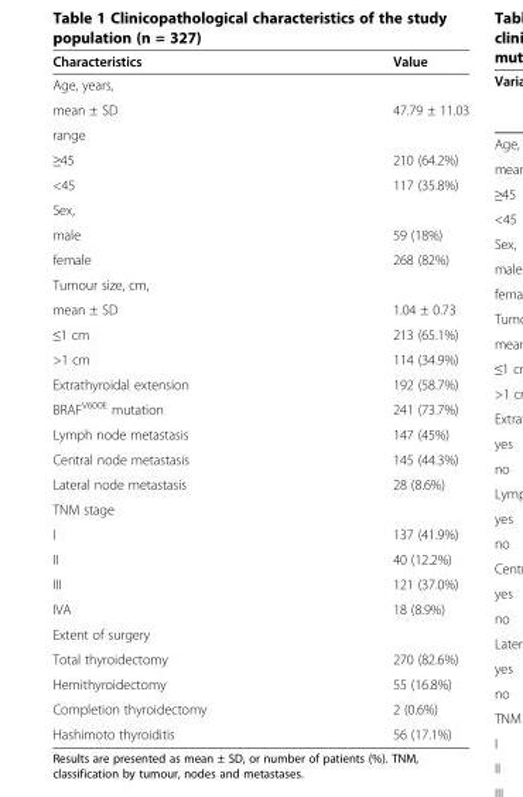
<table><thead><tr><td>Characteristics</td><td>Value</td></tr></thead><tbody><tr><td colspan="2">Age, years,</td></tr><tr><td>mean ± SD</td><td>47.79 ± 11.03</td></tr><tr><td colspan="2">range</td></tr><tr><td>≥45</td><td>210 (64.2%)</td></tr><tr><td>&lt;45</td><td>117 (35.8%)</td></tr><tr><td colspan="2">Sex,</td></tr><tr><td>male</td><td>59 (18%)</td></tr><tr><td>female</td><td>268 (82%)</td></tr><tr><td colspan="2">Tumour size, cm,</td></tr><tr><td>mean ± SD</td><td>1.04 ± 0.73</td></tr><tr><td>≤1 cm</td><td>213 (65.1%)</td></tr><tr><td>&gt;1 cm</td><td>114 (34.9%)</td></tr><tr><td>Extrathyroidal extension</td><td>192 (58.7%)</td></tr><tr><td>BRAF<sup>V600E</sup> mutation</td><td>241 (73.7%)</td></tr><tr><td>Lymph node metastasis</td><td>147 (45%)</td></tr><tr><td>Central node metastasis</td><td>145 (44.3%)</td></tr><tr><td>Lateral node metastasis</td><td>28 (8.6%)</td></tr><tr><td colspan="2">TNM stage</td></tr><tr><td>I</td><td>137 (41.9%)</td></tr><tr><td>II</td><td>40 (12.2%)</td></tr><tr><td>III</td><td>121 (37.0%)</td></tr><tr><td>IVA</td><td>18 (8.9%)</td></tr><tr><td colspan="2">Extent of surgery</td></tr><tr><td>Total thyroidectomy</td><td>270 (82.6%)</td></tr><tr><td>Hemithyroidectomy</td><td>55 (16.8%)</td></tr><tr><td>Completion thyroidectomy</td><td>2 (0.6%)</td></tr><tr><td>Hashimoto thyroiditis</td><td>56 (17.1%)</td></tr></tbody></table>